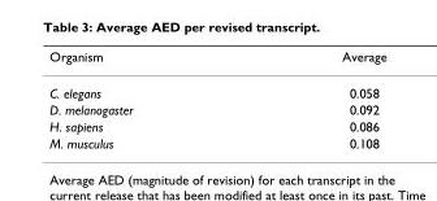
<table><thead><tr><td>Organism</td><td>Average</td></tr></thead><tbody><tr><td>C. elegans</td><td>0.058</td></tr><tr><td>D. melanogaster</td><td>0.092</td></tr><tr><td>H. sapiens</td><td>0.086</td></tr><tr><td>M. musculus</td><td>0.108</td></tr></tbody></table>